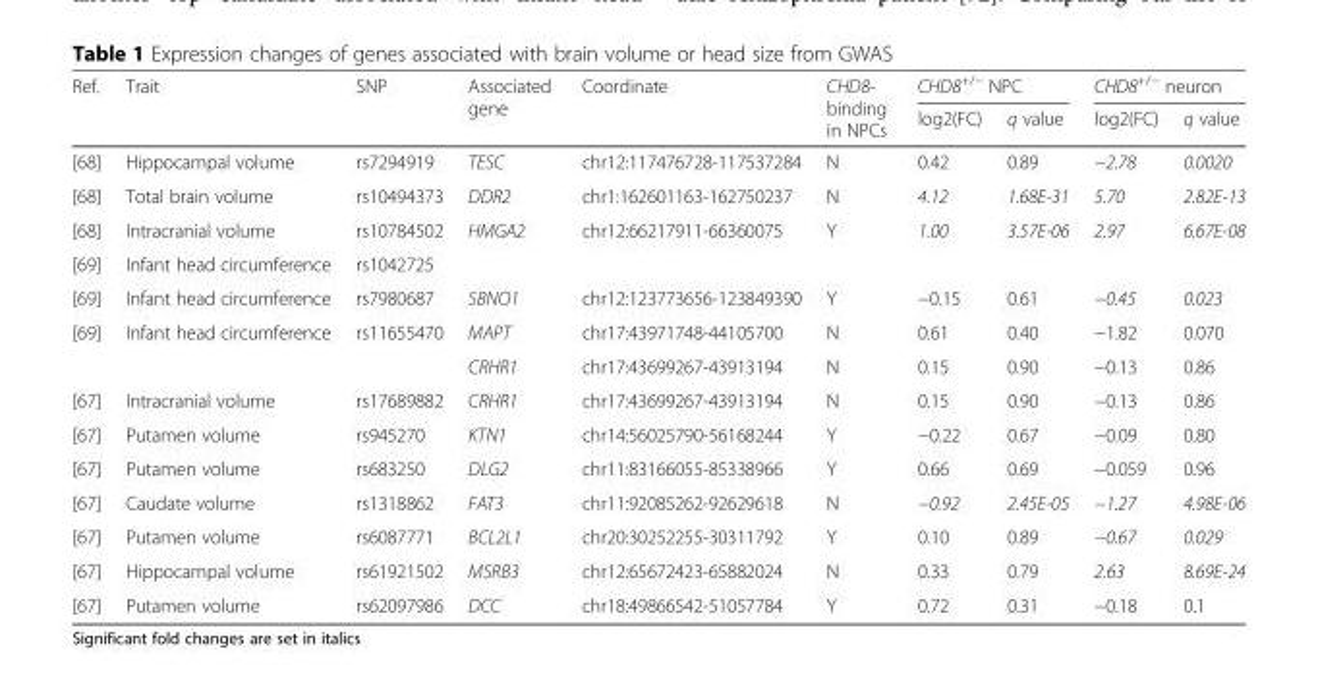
<table><thead><tr><td rowspan="2">Ref.</td><td rowspan="2">Trait</td><td rowspan="2">SNP</td><td rowspan="2">Associated gene</td><td rowspan="2">Coordinate</td><td rowspan="2">CHD8- binding in NPCs</td><td colspan="2">CHD8<sup>+/−</sup> NPC</td><td colspan="2">CHD8<sup>+/−</sup> neuron</td></tr><tr><td>log2(FC)</td><td>q value</td><td>log2(FC)</td><td>q value</td></tr></thead><tbody><tr><td>[68]</td><td>Hippocampal volume</td><td>rs7294919</td><td>TESC</td><td>chr12:117476728-117537284</td><td>N</td><td>0.42</td><td>0.89</td><td>−2.78</td><td>0.0020</td></tr><tr><td>[68]</td><td>Total brain volume</td><td>rs10494373</td><td>DDR2</td><td>chr1:162601163-162750237</td><td>N</td><td>4.12</td><td>1.68E-31</td><td>5.70</td><td>2.82E-13</td></tr><tr><td>[68]</td><td>Intracranial volume</td><td>rs10784502</td><td rowspan="2">HMGA2</td><td rowspan="2">chr12:66217911-66360075</td><td rowspan="2">Y</td><td rowspan="2">1.00</td><td rowspan="2">3.57E-06</td><td rowspan="2">2.97</td><td rowspan="2">6.67E-08</td></tr><tr><td>[69]</td><td>Infant head circumference</td><td>rs1042725</td></tr><tr><td>[69]</td><td>Infant head circumference</td><td>rs7980687</td><td>SBNO1</td><td>chr12:123773656-123849390</td><td>Y</td><td>−0.15</td><td>0.61</td><td>−0.45</td><td>0.023</td></tr><tr><td rowspan="2">[69]</td><td rowspan="2">Infant head circumference</td><td rowspan="2">rs11655470</td><td>MAPT</td><td>chr17:43971748-44105700</td><td>N</td><td>0.61</td><td>0.40</td><td>−1.82</td><td>0.070</td></tr><tr><td>CRHR1</td><td>chr17:43699267-43913194</td><td>N</td><td>0.15</td><td>0.90</td><td>−0.13</td><td>0.86</td></tr><tr><td>[67]</td><td>Intracranial volume</td><td>rs17689882</td><td>CRHR1</td><td>chr17:43699267-43913194</td><td>N</td><td>0.15</td><td>0.90</td><td>−0.13</td><td>0.86</td></tr><tr><td>[67]</td><td>Putamen volume</td><td>rs945270</td><td>KTN1</td><td>chr14:56025790-56168244</td><td>Y</td><td>−0.22</td><td>0.67</td><td>−0.09</td><td>0.80</td></tr><tr><td>[67]</td><td>Putamen volume</td><td>rs683250</td><td>DLG2</td><td>chr11:83166055-85338966</td><td>Y</td><td>0.66</td><td>0.69</td><td>−0.059</td><td>0.96</td></tr><tr><td>[67]</td><td>Caudate volume</td><td>rs1318862</td><td>FAT3</td><td>chr11:92085262-92629618</td><td>N</td><td>−0.92</td><td>2.45E-05</td><td>−1.27</td><td>4.98E-06</td></tr><tr><td>[67]</td><td>Putamen volume</td><td>rs6087771</td><td>BCL2L1</td><td>chr20:30252255-30311792</td><td>Y</td><td>0.10</td><td>0.89</td><td>−0.67</td><td>0.029</td></tr><tr><td>[67]</td><td>Hippocampal volume</td><td>rs61921502</td><td>MSRB3</td><td>chr12:65672423-65882024</td><td>N</td><td>0.33</td><td>0.79</td><td>2.63</td><td>8.69E-24</td></tr><tr><td>[67]</td><td>Putamen volume</td><td>rs62097986</td><td>DCC</td><td>chr18:49866542-51057784</td><td>Y</td><td>0.72</td><td>0.31</td><td>−0.18</td><td>0.1</td></tr></tbody></table>